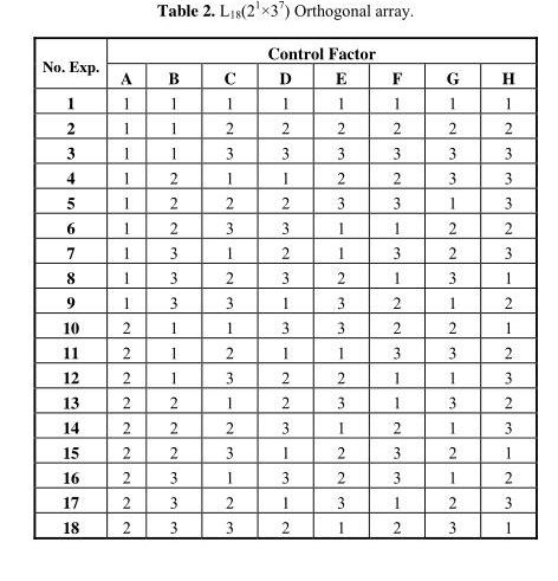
<table><thead><tr><td rowspan="2">No. Exp.</td><td colspan="8">Control Factor</td></tr><tr><td>A</td><td>B</td><td>C</td><td>D</td><td>E</td><td>F</td><td>G</td><td>H</td></tr></thead><tbody><tr><td>1</td><td>1</td><td>1</td><td>1</td><td>1</td><td>1</td><td>1</td><td>1</td><td>1</td></tr><tr><td>2</td><td>1</td><td>1</td><td>2</td><td>2</td><td>2</td><td>2</td><td>2</td><td>2</td></tr><tr><td>3</td><td>1</td><td>1</td><td>3</td><td>3</td><td>3</td><td>3</td><td>3</td><td>3</td></tr><tr><td>4</td><td>1</td><td>2</td><td>1</td><td>1</td><td>2</td><td>2</td><td>3</td><td>3</td></tr><tr><td>5</td><td>1</td><td>2</td><td>2</td><td>2</td><td>3</td><td>3</td><td>1</td><td>3</td></tr><tr><td>6</td><td>1</td><td>2</td><td>3</td><td>3</td><td>1</td><td>1</td><td>2</td><td>2</td></tr><tr><td>7</td><td>1</td><td>3</td><td>1</td><td>2</td><td>1</td><td>3</td><td>2</td><td>3</td></tr><tr><td>8</td><td>1</td><td>3</td><td>2</td><td>3</td><td>2</td><td>1</td><td>3</td><td>1</td></tr><tr><td>9</td><td>1</td><td>3</td><td>3</td><td>1</td><td>3</td><td>2</td><td>1</td><td>2</td></tr><tr><td>10</td><td>2</td><td>1</td><td>1</td><td>3</td><td>3</td><td>2</td><td>2</td><td>1</td></tr><tr><td>11</td><td>2</td><td>1</td><td>2</td><td>1</td><td>1</td><td>3</td><td>3</td><td>2</td></tr><tr><td>12</td><td>2</td><td>1</td><td>3</td><td>2</td><td>2</td><td>1</td><td>1</td><td>3</td></tr><tr><td>13</td><td>2</td><td>2</td><td>1</td><td>2</td><td>3</td><td>1</td><td>3</td><td>2</td></tr><tr><td>14</td><td>2</td><td>2</td><td>2</td><td>3</td><td>1</td><td>2</td><td>1</td><td>3</td></tr><tr><td>15</td><td>2</td><td>2</td><td>3</td><td>1</td><td>2</td><td>3</td><td>2</td><td>1</td></tr><tr><td>16</td><td>2</td><td>3</td><td>1</td><td>3</td><td>2</td><td>3</td><td>1</td><td>2</td></tr><tr><td>17</td><td>2</td><td>3</td><td>2</td><td>1</td><td>3</td><td>1</td><td>2</td><td>3</td></tr><tr><td>18</td><td>2</td><td>3</td><td>3</td><td>2</td><td>1</td><td>2</td><td>3</td><td>1</td></tr></tbody></table>